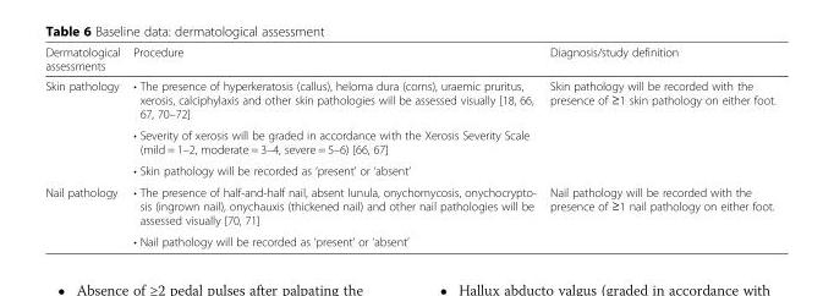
<table><thead><tr><td>Dermatological assessments</td><td>Procedure</td><td>Diagnosis/study definition</td></tr></thead><tbody><tr><td rowspan="3">Skin pathology</td><td>• The presence of hyperkeratosis (callus), heloma dura (corns), uraemic pruritus, xerosis, calciphylaxis and other skin pathologies will be assessed visually [18, 66, 67, 70–72]</td><td rowspan="3">Skin pathology will be recorded with the presence of ≥1 skin pathology on either foot.</td></tr><tr><td>• Severity of xerosis will be graded in accordance with the Xerosis Severity Scale (mild = 1–2, moderate = 3–4, severe = 5–6) [66, 67]</td></tr><tr><td>• Skin pathology will be recorded as ‘present’ or ‘absent’</td></tr><tr><td rowspan="2">Nail pathology</td><td>• The presence of half-and-half nail, absent lunula, onychomycosis, onychocrypto- sis (ingrown nail), onychauxis (thickened nail) and other nail pathologies will be assessed visually [70, 71]</td><td rowspan="2">Nail pathology will be recorded with the presence of ≥1 nail pathology on either foot.</td></tr><tr><td>• Nail pathology will be recorded as ‘present’ or ‘absent’</td></tr></tbody></table>